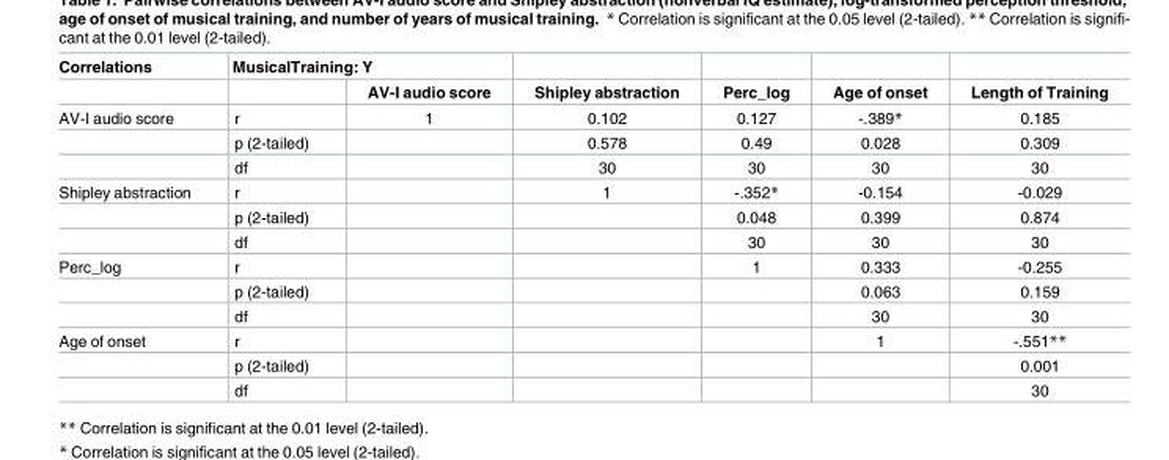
<table><thead><tr><td rowspan="2">Correlations</td><td colspan="2">MusicalTraining: Y</td><td rowspan="2">Shipley abstraction</td><td rowspan="2">Perc_log</td><td rowspan="2">Age of onset</td><td rowspan="2">Length of Training</td></tr><tr><td></td><td>AV-I audio score</td></tr></thead><tbody><tr><td rowspan="3">AV-I audio score</td><td>r</td><td>1</td><td>0.102</td><td>0.127</td><td>-.389*</td><td>0.185</td></tr><tr><td>p (2-tailed)</td><td></td><td>0.578</td><td>0.49</td><td>0.028</td><td>0.309</td></tr><tr><td>df</td><td></td><td>30</td><td>30</td><td>30</td><td>30</td></tr><tr><td rowspan="3">Shipley abstraction</td><td>r</td><td></td><td>1</td><td>-.352*</td><td>-0.154</td><td>-0.029</td></tr><tr><td>p (2-tailed)</td><td></td><td></td><td>0.048</td><td>0.399</td><td>0.874</td></tr><tr><td>df</td><td></td><td></td><td>30</td><td>30</td><td>30</td></tr><tr><td rowspan="3">Perc_log</td><td>r</td><td></td><td></td><td>1</td><td>0.333</td><td>-0.255</td></tr><tr><td>p (2-tailed)</td><td></td><td></td><td></td><td>0.063</td><td>0.159</td></tr><tr><td>df</td><td></td><td></td><td></td><td>30</td><td>30</td></tr><tr><td rowspan="3">Age of onset</td><td>r</td><td></td><td></td><td></td><td>1</td><td>-.551**</td></tr><tr><td>p (2-tailed)</td><td></td><td></td><td></td><td></td><td>0.001</td></tr><tr><td>df</td><td></td><td></td><td></td><td></td><td>30</td></tr></tbody></table>